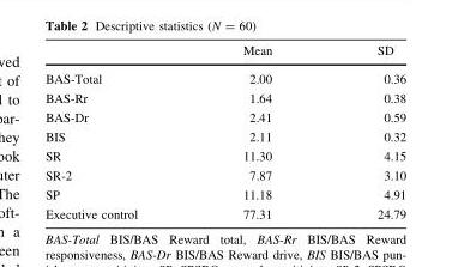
<table><thead><tr><td></td><td>Mean</td><td>SD</td></tr></thead><tbody><tr><td>BAS-Total</td><td>2.00</td><td>0.36</td></tr><tr><td>BAS-Rr</td><td>1.64</td><td>0.38</td></tr><tr><td>BAS-Dr</td><td>2.41</td><td>0.59</td></tr><tr><td>BIS</td><td>2.11</td><td>0.32</td></tr><tr><td>SR</td><td>11.30</td><td>4.15</td></tr><tr><td>SR-2</td><td>7.87</td><td>3.10</td></tr><tr><td>SP</td><td>11.18</td><td>4.91</td></tr><tr><td>Executive control</td><td>77.31</td><td>24.79</td></tr></tbody></table>